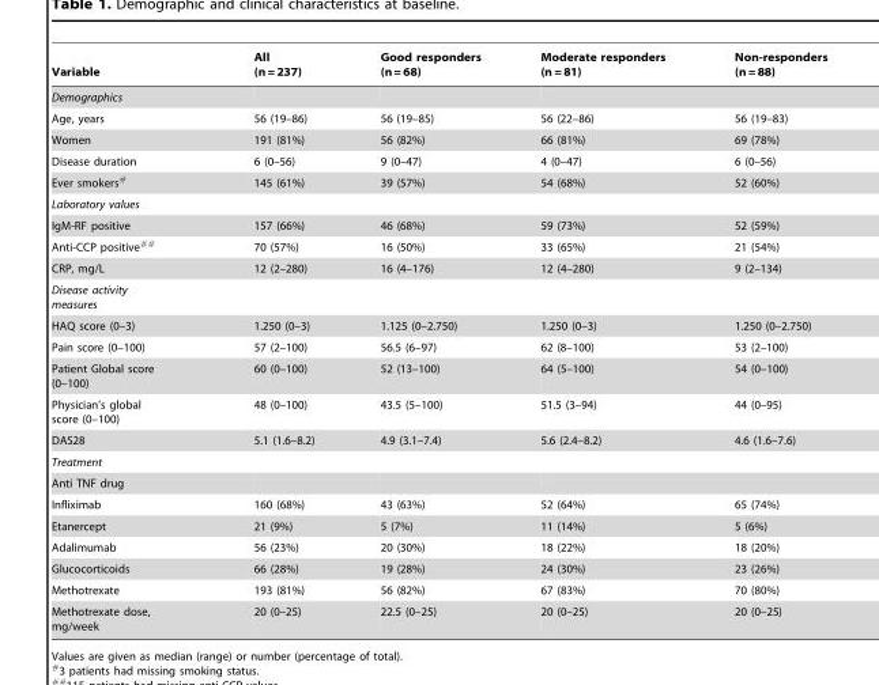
<table><thead><tr><td>Variable</td><td>All (n = 237)</td><td>Good responders (n = 68)</td><td>Moderate responders (n = 81)</td><td>Non-responders (n = 88)</td></tr></thead><tbody><tr><td colspan="5">Demographics</td></tr><tr><td>Age, years</td><td>56 (19–86)</td><td>56 (19–85)</td><td>56 (22–86)</td><td>56 (19–83)</td></tr><tr><td>Women</td><td>191 (81%)</td><td>56 (82%)</td><td>66 (81%)</td><td>69 (78%)</td></tr><tr><td>Disease duration</td><td>6 (0–56)</td><td>9 (0–47)</td><td>4 (0–47)</td><td>6 (0–56)</td></tr><tr><td>Ever smokers#</td><td>145 (61%)</td><td>39 (57%)</td><td>54 (68%)</td><td>52 (60%)</td></tr><tr><td colspan="5">Laboratory values</td></tr><tr><td>IgM-RF positive</td><td>157 (66%)</td><td>46 (68%)</td><td>59 (73%)</td><td>52 (59%)</td></tr><tr><td>Anti-CCP positive##</td><td>70 (57%)</td><td>16 (50%)</td><td>33 (65%)</td><td>21 (54%)</td></tr><tr><td>CRP, mg/L</td><td>12 (2–280)</td><td>16 (4–176)</td><td>12 (4–280)</td><td>9 (2–134)</td></tr><tr><td colspan="5">Disease activity measures</td></tr><tr><td>HAQ score (0–3)</td><td>1.250 (0–3)</td><td>1.125 (0–2.750)</td><td>1.250 (0–3)</td><td>1.250 (0–2.750)</td></tr><tr><td>Pain score (0–100)</td><td>57 (2–100)</td><td>56.5 (6–97)</td><td>62 (8–100)</td><td>53 (2–100)</td></tr><tr><td>Patient Global score (0–100)</td><td>60 (0–100)</td><td>52 (13–100)</td><td>64 (5–100)</td><td>54 (0–100)</td></tr><tr><td>Physician’s global score (0–100)</td><td>48 (0–100)</td><td>43.5 (5–100)</td><td>51.5 (3–94)</td><td>44 (0–95)</td></tr><tr><td>DAS28</td><td>5.1 (1.6–8.2)</td><td>4.9 (3.1–7.4)</td><td>5.6 (2.4–8.2)</td><td>4.6 (1.6–7.6)</td></tr><tr><td colspan="5">Treatment</td></tr><tr><td colspan="5">Anti TNF drug</td></tr><tr><td>Infliximab</td><td>160 (68%)</td><td>43 (63%)</td><td>52 (64%)</td><td>65 (74%)</td></tr><tr><td>Etanercept</td><td>21 (9%)</td><td>5 (7%)</td><td>11 (14%)</td><td>5 (6%)</td></tr><tr><td>Adalimumab</td><td>56 (23%)</td><td>20 (30%)</td><td>18 (22%)</td><td>18 (20%)</td></tr><tr><td>Glucocorticoids</td><td>66 (28%)</td><td>19 (28%)</td><td>24 (30%)</td><td>23 (26%)</td></tr><tr><td>Methotrexate</td><td>193 (81%)</td><td>56 (82%)</td><td>67 (83%)</td><td>70 (80%)</td></tr><tr><td>Methotrexate dose, mg/week</td><td>20 (0–25)</td><td>22.5 (0–25)</td><td>20 (0–25)</td><td>20 (0–25)</td></tr></tbody></table>